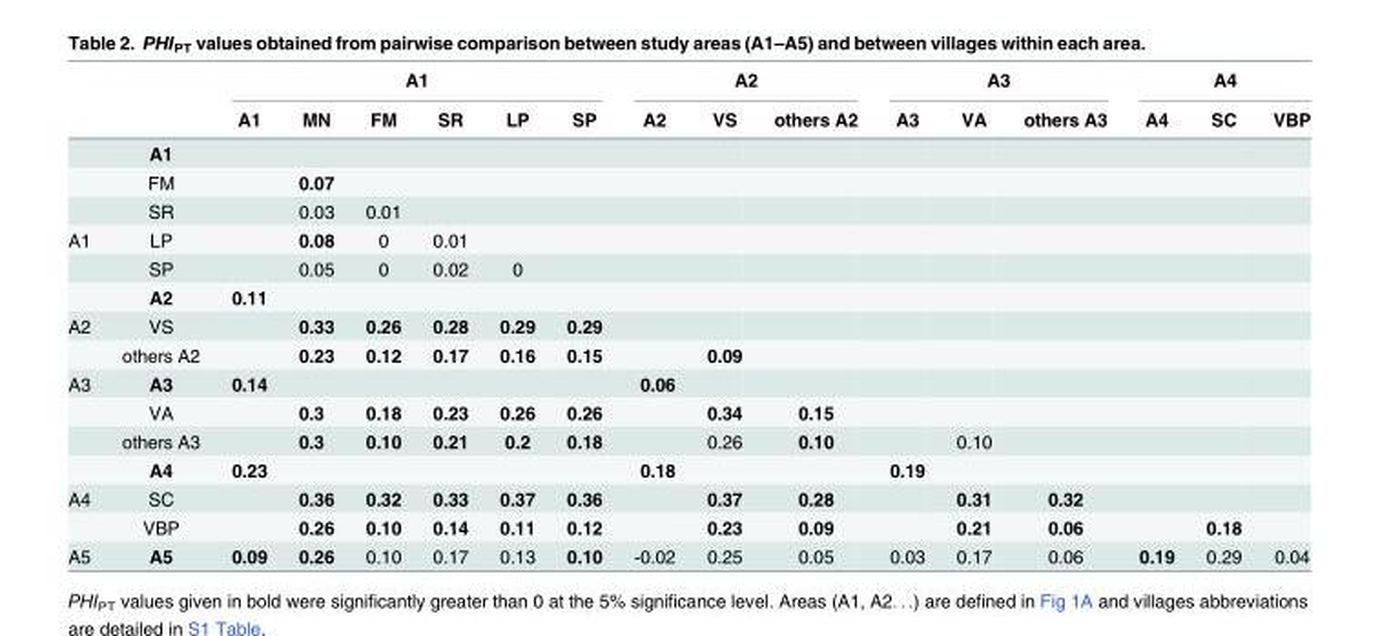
<table><thead><tr><td rowspan="2"></td><td rowspan="2"></td><td colspan="6">A1</td><td colspan="3">A2</td><td colspan="3">A3</td><td colspan="3">A4</td></tr><tr><td>A1</td><td>MN</td><td>FM</td><td>SR</td><td>LP</td><td>SP</td><td>A2</td><td>VS</td><td>others A2</td><td>A3</td><td>VA</td><td>others A3</td><td>A4</td><td>SC</td><td>VBP</td></tr></thead><tbody><tr><td></td><td>A1</td><td></td><td></td><td></td><td></td><td></td><td></td><td></td><td></td><td></td><td></td><td></td><td></td><td></td><td></td><td></td></tr><tr><td></td><td>FM</td><td></td><td>0.07</td><td></td><td></td><td></td><td></td><td></td><td></td><td></td><td></td><td></td><td></td><td></td><td></td><td></td></tr><tr><td></td><td>SR</td><td></td><td>0.03</td><td>0.01</td><td></td><td></td><td></td><td></td><td></td><td></td><td></td><td></td><td></td><td></td><td></td><td></td></tr><tr><td rowspan="3">A1</td><td>LP</td><td></td><td>0.08</td><td>0</td><td>0.01</td><td></td><td></td><td></td><td></td><td></td><td></td><td></td><td></td><td></td><td></td><td></td></tr><tr><td>SP</td><td></td><td>0.05</td><td>0</td><td>0.02</td><td>0</td><td></td><td></td><td></td><td></td><td></td><td></td><td></td><td></td><td></td><td></td></tr><tr><td>A2</td><td>0.11</td><td></td><td></td><td></td><td></td><td></td><td></td><td></td><td></td><td></td><td></td><td></td><td></td><td></td><td></td></tr><tr><td rowspan="2">A2</td><td>VS</td><td></td><td>0.33</td><td>0.26</td><td>0.28</td><td>0.29</td><td>0.29</td><td></td><td></td><td></td><td></td><td></td><td></td><td></td><td></td><td></td></tr><tr><td>others A2</td><td></td><td>0.23</td><td>0.12</td><td>0.17</td><td>0.16</td><td>0.15</td><td></td><td>0.09</td><td></td><td></td><td></td><td></td><td></td><td></td><td></td></tr><tr><td rowspan="4">A3</td><td>A3</td><td>0.14</td><td></td><td></td><td></td><td></td><td></td><td>0.06</td><td></td><td></td><td></td><td></td><td></td><td></td><td></td><td></td></tr><tr><td>VA</td><td></td><td>0.3</td><td>0.18</td><td>0.23</td><td>0.26</td><td>0.26</td><td></td><td>0.34</td><td>0.15</td><td></td><td></td><td></td><td></td><td></td><td></td></tr><tr><td>others A3</td><td></td><td>0.3</td><td>0.10</td><td>0.21</td><td>0.2</td><td>0.18</td><td></td><td>0.26</td><td>0.10</td><td></td><td>0.10</td><td></td><td></td><td></td><td></td></tr><tr><td>A4</td><td>0.23</td><td></td><td></td><td></td><td></td><td></td><td>0.18</td><td></td><td></td><td>0.19</td><td></td><td></td><td></td><td></td><td></td></tr><tr><td rowspan="2">A4</td><td>SC</td><td></td><td>0.36</td><td>0.32</td><td>0.33</td><td>0.37</td><td>0.36</td><td></td><td>0.37</td><td>0.28</td><td></td><td>0.31</td><td>0.32</td><td></td><td></td><td></td></tr><tr><td>VBP</td><td></td><td>0.26</td><td>0.10</td><td>0.14</td><td>0.11</td><td>0.12</td><td></td><td>0.23</td><td>0.09</td><td></td><td>0.21</td><td>0.06</td><td></td><td>0.18</td><td></td></tr><tr><td>A5</td><td>A5</td><td>0.09</td><td>0.26</td><td>0.10</td><td>0.17</td><td>0.13</td><td>0.10</td><td>-0.02</td><td>0.25</td><td>0.05</td><td>0.03</td><td>0.17</td><td>0.06</td><td>0.19</td><td>0.29</td><td>0.04</td></tr></tbody></table>